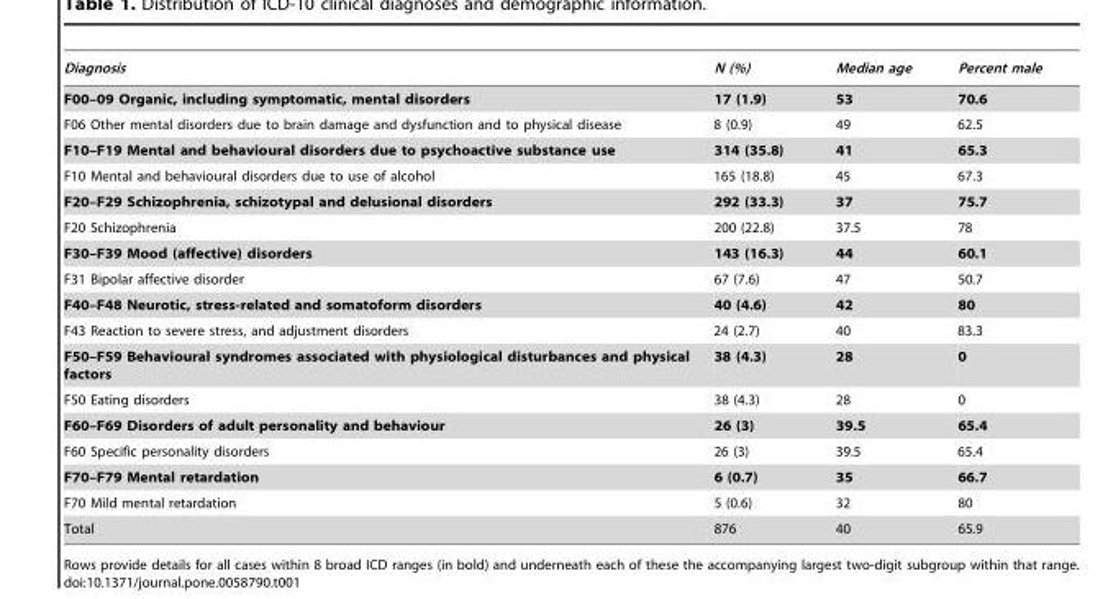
<table><thead><tr><td>Diagnosis</td><td>N (%)</td><td>Median age</td><td>Percent male</td></tr></thead><tbody><tr><td>F00–09 Organic, including symptomatic, mental disorders</td><td>17 (1.9)</td><td>53</td><td>70.6</td></tr><tr><td>F06 Other mental disorders due to brain damage and dysfunction and to physical disease</td><td>8 (0.9)</td><td>49</td><td>62.5</td></tr><tr><td>F10–F19 Mental and behavioural disorders due to psychoactive substance use</td><td>314 (35.8)</td><td>41</td><td>65.3</td></tr><tr><td>F10 Mental and behavioural disorders due to use of alcohol</td><td>165 (18.8)</td><td>45</td><td>67.3</td></tr><tr><td>F20–F29 Schizophrenia, schizotypal and delusional disorders</td><td>292 (33.3)</td><td>37</td><td>75.7</td></tr><tr><td>F20 Schizophrenia</td><td>200 (22.8)</td><td>37.5</td><td>78</td></tr><tr><td>F30–F39 Mood (affective) disorders</td><td>143 (16.3)</td><td>44</td><td>60.1</td></tr><tr><td>F31 Bipolar affective disorder</td><td>67 (7.6)</td><td>47</td><td>50.7</td></tr><tr><td>F40–F48 Neurotic, stress-related and somatoform disorders</td><td>40 (4.6)</td><td>42</td><td>80</td></tr><tr><td>F43 Reaction to severe stress, and adjustment disorders</td><td>24 (2.7)</td><td>40</td><td>83.3</td></tr><tr><td>F50–F59 Behavioural syndromes associated with physiological disturbances and physical factors</td><td>38 (4.3)</td><td>28</td><td>0</td></tr><tr><td>F50 Eating disorders</td><td>38 (4.3)</td><td>28</td><td>0</td></tr><tr><td>F60–F69 Disorders of adult personality and behaviour</td><td>26 (3)</td><td>39.5</td><td>65.4</td></tr><tr><td>F60 Specific personality disorders</td><td>26 (3)</td><td>39.5</td><td>65.4</td></tr><tr><td>F70–F79 Mental retardation</td><td>6 (0.7)</td><td>35</td><td>66.7</td></tr><tr><td>F70 Mild mental retardation</td><td>5 (0.6)</td><td>32</td><td>80</td></tr><tr><td>Total</td><td>876</td><td>40</td><td>65.9</td></tr></tbody></table>